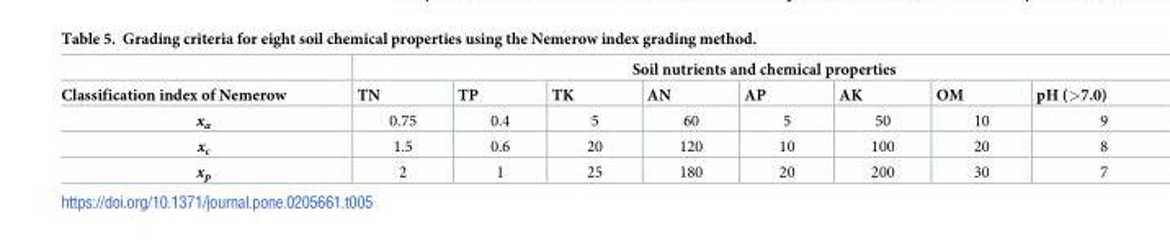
<table><thead><tr><td rowspan="2">Classification index of Nemerow</td><td colspan="8">Soil nutrients and chemical properties</td></tr><tr><td>TN</td><td>TP</td><td>TK</td><td>AN</td><td>AP</td><td>AK</td><td>OM</td><td>pH (&gt;7.0)</td></tr></thead><tbody><tr><td>x<sub>a</sub></td><td>0.75</td><td>0.4</td><td>5</td><td>60</td><td>5</td><td>50</td><td>10</td><td>9</td></tr><tr><td>x<sub>c</sub></td><td>1.5</td><td>0.6</td><td>20</td><td>120</td><td>10</td><td>100</td><td>20</td><td>8</td></tr><tr><td>x<sub>p</sub></td><td>2</td><td>1</td><td>25</td><td>180</td><td>20</td><td>200</td><td>30</td><td>7</td></tr></tbody></table>